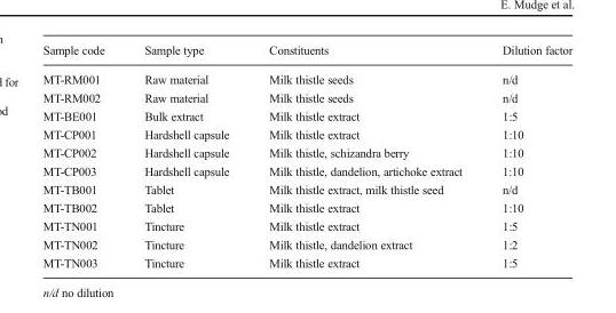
<table><thead><tr><td>Sample code</td><td>Sample type</td><td>Constituents</td><td>Dilution factor</td></tr></thead><tbody><tr><td>MT-RM001</td><td>Raw material</td><td>Milk thistle seeds</td><td>n/d</td></tr><tr><td>MT-RM002</td><td>Raw material</td><td>Milk thistle seeds</td><td>n/d</td></tr><tr><td>MT-BE001</td><td>Bulk extract</td><td>Milk thistle extract</td><td>1:5</td></tr><tr><td>MT-CP001</td><td>Hardshell capsule</td><td>Milk thistle extract</td><td>1:10</td></tr><tr><td>MT-CP002</td><td>Hardshell capsule</td><td>Milk thistle, schizandra berry</td><td>1:10</td></tr><tr><td>MT-CP003</td><td>Hardshell capsule</td><td>Milk thistle, dandelion, artichoke extract</td><td>1:10</td></tr><tr><td>MT-TB001</td><td>Tablet</td><td>Milk thistle extract, milk thistle seed</td><td>n/d</td></tr><tr><td>MT-TB002</td><td>Tablet</td><td>Milk thistle extract</td><td>1:10</td></tr><tr><td>MT-TN001</td><td>Tincture</td><td>Milk thistle extract</td><td>1:5</td></tr><tr><td>MT-TN002</td><td>Tincture</td><td>Milk thistle, dandelion extract</td><td>1:2</td></tr><tr><td>MT-TN003</td><td>Tincture</td><td>Milk thistle extract</td><td>1:5</td></tr></tbody></table>